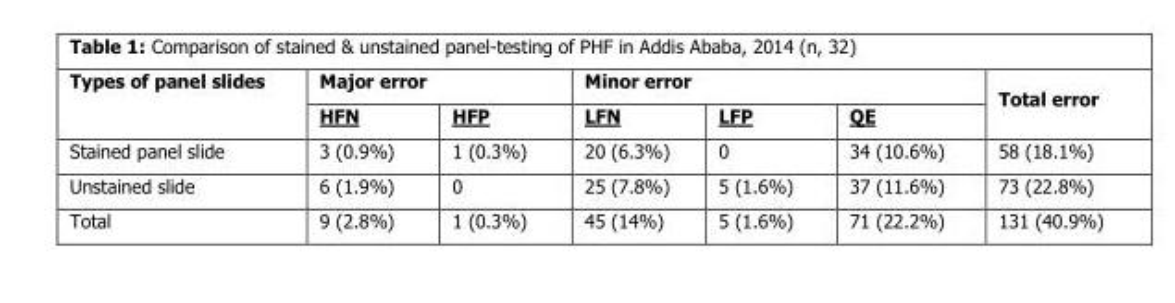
<table><thead><tr><td rowspan="2">Types of panel slides</td><td colspan="2">Major error</td><td colspan="3">Minor error</td><td rowspan="2">Total error</td></tr><tr><td>HFN</td><td>HFP</td><td>LFN</td><td>LFP</td><td>QE</td></tr></thead><tbody><tr><td>Stained panel slide</td><td>3 (0.9%)</td><td>1 (0.3%)</td><td>20 (6.3%)</td><td>0</td><td>34 (10.6%)</td><td>58 (18.1%)</td></tr><tr><td>Unstained slide</td><td>6 (1.9%)</td><td>0</td><td>25 (7.8%)</td><td>5 (1.6%)</td><td>37 (11.6%)</td><td>73 (22.8%)</td></tr><tr><td>Total</td><td>9 (2.8%)</td><td>1 (0.3%)</td><td>45 (14%)</td><td>5 (1.6%)</td><td>71 (22.2%)</td><td>131 (40.9%)</td></tr></tbody></table>